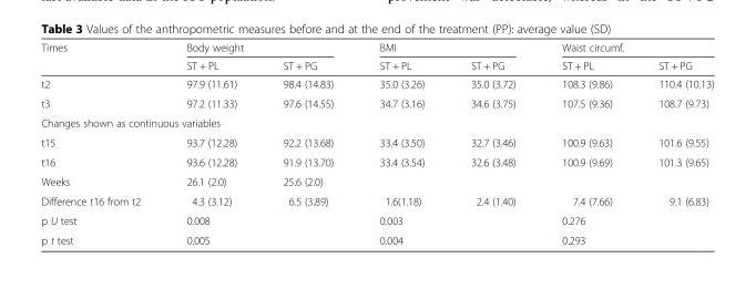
<table><thead><tr><td rowspan="2">Times</td><td colspan="2">Body weight</td><td colspan="2">BMI</td><td colspan="2">Waist circumf.</td></tr><tr><td>ST + PL</td><td>ST + PG</td><td>ST + PL</td><td>ST + PG</td><td>ST + PL</td><td>ST + PG</td></tr></thead><tbody><tr><td>t2</td><td>97.9 (11.61)</td><td>98.4 (14.83)</td><td>35.0 (3.26)</td><td>35.0 (3.72)</td><td>108.3 (9.86)</td><td>110.4 (10.13)</td></tr><tr><td>t3</td><td>97.2 (11.33)</td><td>97.6 (14.55)</td><td>34.7 (3.16)</td><td>34.6 (3.75)</td><td>107.5 (9.36)</td><td>108.7 (9.73)</td></tr><tr><td colspan="7">Changes shown as continuous variables</td></tr><tr><td>t15</td><td>93.7 (12.28)</td><td>92.2 (13.68)</td><td>33.4 (3.50)</td><td>32.7 (3.46)</td><td>100.9 (9.63)</td><td>101.6 (9.55)</td></tr><tr><td>t16</td><td>93.6 (12.28)</td><td>91.9 (13.70)</td><td>33.4 (3.54)</td><td>32.6 (3.48)</td><td>100.9 (9.69)</td><td>101.3 (9.65)</td></tr><tr><td>Weeks</td><td>26.1 (2.0)</td><td>25.6 (2.0)</td><td></td><td></td><td></td><td></td></tr><tr><td>Difference t16 from t2</td><td>4.3 (3.12)</td><td>6.5 (3.89)</td><td>1.6(1.18)</td><td>2.4 (1.40)</td><td>7.4 (7.66)</td><td>9.1 (6.83)</td></tr><tr><td>p U test</td><td colspan="2">0.008</td><td colspan="2">0.003</td><td colspan="2">0.276</td></tr><tr><td>p t test</td><td colspan="2">0.005</td><td colspan="2">0.004</td><td colspan="2">0.293</td></tr></tbody></table>